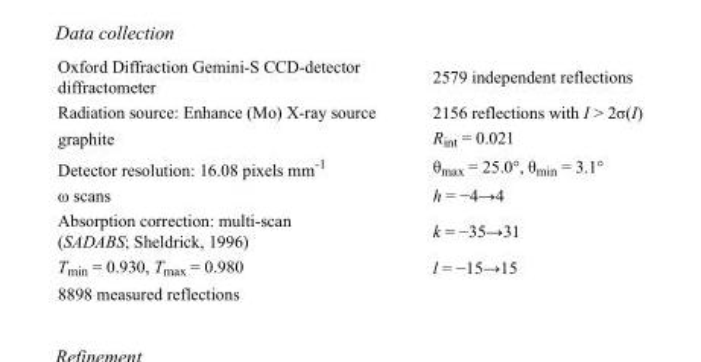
<table><tbody><tr><td>Oxford Diffraction Gemini-S CCD-detector diffractometer</td><td>2579 independent reflections</td></tr><tr><td>Radiation source: Enhance (Mo) X-ray source</td><td>2156 reflections with I &gt; 2σ(I)</td></tr><tr><td>graphite</td><td>R<sub>int</sub> = 0.021</td></tr><tr><td>Detector resolution: 16.08 pixels mm<sup>-1</sup></td><td>θ<sub>max</sub> = 25.0°, θ<sub>min</sub> = 3.1°</td></tr><tr><td>ω scans</td><td>h = −4→4</td></tr><tr><td>Absorption correction: multi-scan (SADABS; Sheldrick, 1996)</td><td>k = −35→31</td></tr><tr><td>T<sub>min</sub> = 0.930, T<sub>max</sub> = 0.980</td><td>l = −15→15</td></tr><tr><td>8898 measured reflections</td><td></td></tr></tbody></table>